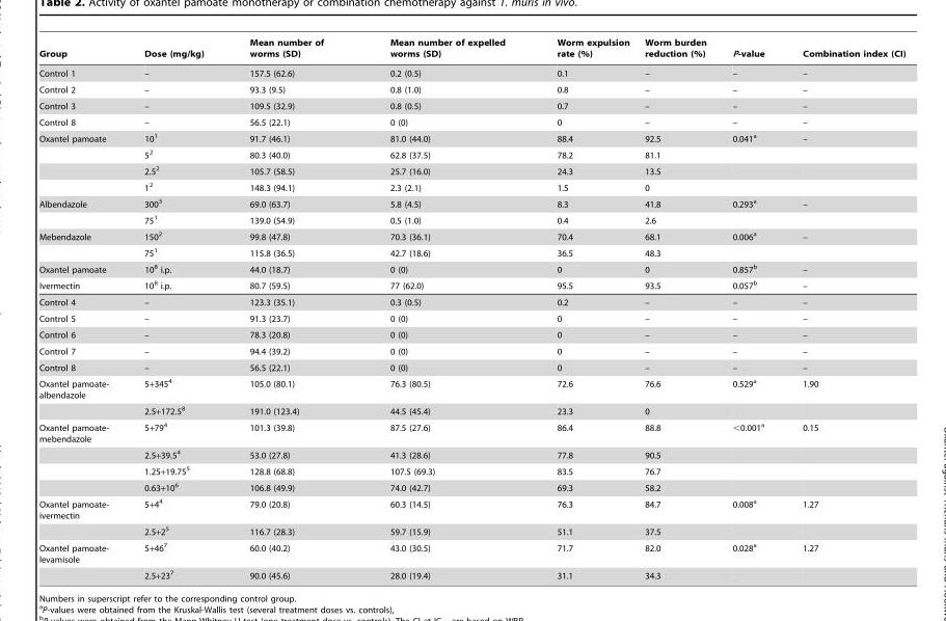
<table><thead><tr><td>Group</td><td>Dose (mg/kg)</td><td>Mean number of worms (SD)</td><td>Mean number of expelled worms (SD)</td><td>Worm expulsion rate (%)</td><td>Worm burden reduction (%)</td><td>P-value</td><td>Combination index (CI)</td></tr></thead><tbody><tr><td>Control 1</td><td>–</td><td>157.5 (62.6)</td><td>0.2 (0.5)</td><td>0.1</td><td>–</td><td>–</td><td>–</td></tr><tr><td>Control 2</td><td>–</td><td>93.3 (9.5)</td><td>0.8 (1.0)</td><td>0.8</td><td>–</td><td>–</td><td>–</td></tr><tr><td>Control 3</td><td>–</td><td>109.5 (32.9)</td><td>0.8 (0.5)</td><td>0.7</td><td>–</td><td>–</td><td>–</td></tr><tr><td>Control 8</td><td>–</td><td>56.5 (22.1)</td><td>0 (0)</td><td>0</td><td>–</td><td>–</td><td>–</td></tr><tr><td rowspan="4">Oxantel pamoate</td><td>10<sup>1</sup></td><td>91.7 (46.1)</td><td>81.0 (44.0)</td><td>88.4</td><td>92.5</td><td>0.041<sup>a</sup></td><td>–</td></tr><tr><td>5<sup>2</sup></td><td>80.3 (40.0)</td><td>62.8 (37.5)</td><td>78.2</td><td>81.1</td><td></td><td></td></tr><tr><td>2.5<sup>2</sup></td><td>105.7 (58.5)</td><td>25.7 (16.0)</td><td>24.3</td><td>13.5</td><td></td><td></td></tr><tr><td>1<sup>2</sup></td><td>148.3 (94.1)</td><td>2.3 (2.1)</td><td>1.5</td><td>0</td><td></td><td></td></tr><tr><td rowspan="2">Albendazole</td><td>300<sup>3</sup></td><td>69.0 (63.7)</td><td>5.8 (4.5)</td><td>8.3</td><td>41.8</td><td>0.293<sup>a</sup></td><td>–</td></tr><tr><td>75<sup>1</sup></td><td>139.0 (54.9)</td><td>0.5 (1.0)</td><td>0.4</td><td>2.6</td><td></td><td></td></tr><tr><td rowspan="2">Mebendazole</td><td>150<sup>2</sup></td><td>99.8 (47.8)</td><td>70.3 (36.1)</td><td>70.4</td><td>68.1</td><td>0.006<sup>a</sup></td><td>–</td></tr><tr><td>75<sup>1</sup></td><td>115.8 (36.5)</td><td>42.7 (18.6)</td><td>36.5</td><td>48.3</td><td></td><td></td></tr><tr><td>Oxantel pamoate</td><td>10<sup>8</sup> i.p.</td><td>44.0 (18.7)</td><td>0 (0)</td><td>0</td><td>0</td><td>0.857<sup>b</sup></td><td>–</td></tr><tr><td>Ivermectin</td><td>10<sup>8</sup> i.p.</td><td>80.7 (59.5)</td><td>77 (62.0)</td><td>95.5</td><td>93.5</td><td>0.057<sup>b</sup></td><td>–</td></tr><tr><td>Control 4</td><td>–</td><td>123.3 (35.1)</td><td>0.3 (0.5)</td><td>0.2</td><td>–</td><td>–</td><td>–</td></tr><tr><td>Control 5</td><td>–</td><td>91.3 (23.7)</td><td>0 (0)</td><td>0</td><td>–</td><td>–</td><td>–</td></tr><tr><td>Control 6</td><td>–</td><td>78.3 (20.8)</td><td>0 (0)</td><td>0</td><td>–</td><td>–</td><td>–</td></tr><tr><td>Control 7</td><td>–</td><td>94.4 (39.2)</td><td>0 (0)</td><td>0</td><td>–</td><td>–</td><td>–</td></tr><tr><td>Control 8</td><td>–</td><td>56.5 (22.1)</td><td>0 (0)</td><td>0</td><td>–</td><td>–</td><td>–</td></tr><tr><td rowspan="2">Oxantel pamoate- albendazole</td><td>5+345<sup>4</sup></td><td>105.0 (80.1)</td><td>76.3 (80.5)</td><td>72.6</td><td>76.6</td><td>0.529<sup>a</sup></td><td>1.90</td></tr><tr><td>2.5+172.5<sup>8</sup></td><td>191.0 (123.4)</td><td>44.5 (45.4)</td><td>23.3</td><td>0</td><td></td><td></td></tr><tr><td rowspan="4">Oxantel pamoate- mebendazole</td><td>5+79<sup>4</sup></td><td>101.3 (39.8)</td><td>87.5 (27.6)</td><td>86.4</td><td>88.8</td><td>&lt;0.001<sup>a</sup></td><td>0.15</td></tr><tr><td>2.5+39.5<sup>4</sup></td><td>53.0 (27.8)</td><td>41.3 (28.6)</td><td>77.8</td><td>90.5</td><td></td><td></td></tr><tr><td>1.25+19.75<sup>5</sup></td><td>128.8 (68.8)</td><td>107.5 (69.3)</td><td>83.5</td><td>76.7</td><td></td><td></td></tr><tr><td>0.63+10<sup>6</sup></td><td>106.8 (49.9)</td><td>74.0 (42.7)</td><td>69.3</td><td>58.2</td><td></td><td></td></tr><tr><td rowspan="2">Oxantel pamoate- ivermectin</td><td>5+4<sup>4</sup></td><td>79.0 (20.8)</td><td>60.3 (14.5)</td><td>76.3</td><td>84.7</td><td>0.008<sup>a</sup></td><td>1.27</td></tr><tr><td>2.5+2<sup>5</sup></td><td>116.7 (28.3)</td><td>59.7 (15.9)</td><td>51.1</td><td>37.5</td><td></td><td></td></tr><tr><td rowspan="2">Oxantel pamoate- levamisole</td><td>5+46<sup>7</sup></td><td>60.0 (40.2)</td><td>43.0 (30.5)</td><td>71.7</td><td>82.0</td><td>0.028<sup>a</sup></td><td>1.27</td></tr><tr><td>2.5+23<sup>7</sup></td><td>90.0 (45.6)</td><td>28.0 (19.4)</td><td>31.1</td><td>34.3</td><td></td><td></td></tr></tbody></table>